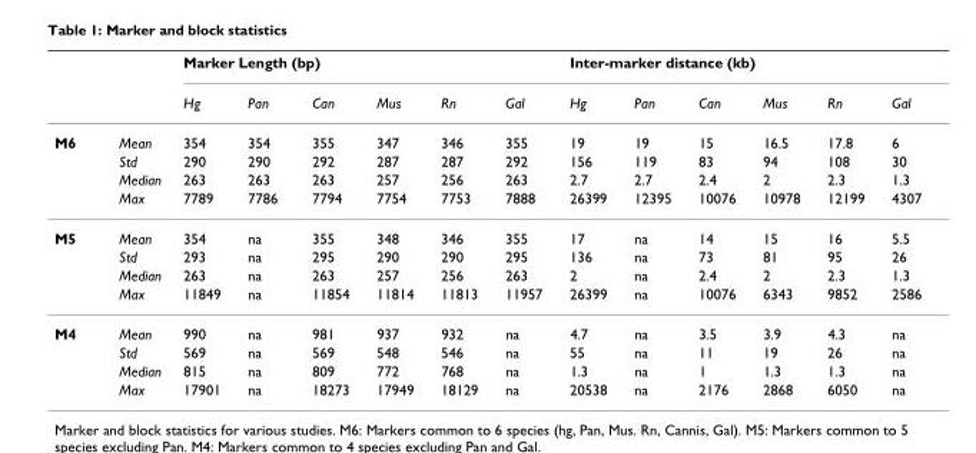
<table><thead><tr><td rowspan="2"></td><td rowspan="2"></td><td colspan="6">Marker Length (bp)</td><td colspan="6">Inter-marker distance (kb)</td></tr><tr><td>Hg</td><td>Pan</td><td>Can</td><td>Mus</td><td>Rn</td><td>Gal</td><td>Hg</td><td>Pan</td><td>Can</td><td>Mus</td><td>Rn</td><td>Gal</td></tr></thead><tbody><tr><td rowspan="4">M6</td><td>Mean</td><td>354</td><td>354</td><td>355</td><td>347</td><td>346</td><td>355</td><td>19</td><td>19</td><td>15</td><td>16.5</td><td>17.8</td><td>6</td></tr><tr><td>Std</td><td>290</td><td>290</td><td>292</td><td>287</td><td>287</td><td>292</td><td>156</td><td>119</td><td>83</td><td>94</td><td>108</td><td>30</td></tr><tr><td>Median</td><td>263</td><td>263</td><td>263</td><td>257</td><td>256</td><td>263</td><td>2.7</td><td>2.7</td><td>2.4</td><td>2</td><td>2.3</td><td>1.3</td></tr><tr><td>Max</td><td>7789</td><td>7786</td><td>7794</td><td>7754</td><td>7753</td><td>7888</td><td>26399</td><td>12395</td><td>10076</td><td>10978</td><td>12199</td><td>4307</td></tr><tr><td rowspan="4">M5</td><td>Mean</td><td>354</td><td>na</td><td>355</td><td>348</td><td>346</td><td>355</td><td>17</td><td>na</td><td>14</td><td>15</td><td>16</td><td>5.5</td></tr><tr><td>Std</td><td>293</td><td>na</td><td>295</td><td>290</td><td>290</td><td>295</td><td>136</td><td>na</td><td>73</td><td>81</td><td>95</td><td>26</td></tr><tr><td>Median</td><td>263</td><td>na</td><td>263</td><td>257</td><td>256</td><td>263</td><td>2</td><td>na</td><td>2.4</td><td>2</td><td>2.3</td><td>1.3</td></tr><tr><td>Max</td><td>11849</td><td>na</td><td>11854</td><td>11814</td><td>11813</td><td>11957</td><td>26399</td><td>na</td><td>10076</td><td>6343</td><td>9852</td><td>2586</td></tr><tr><td rowspan="4">M4</td><td>Mean</td><td>990</td><td>na</td><td>981</td><td>937</td><td>932</td><td>na</td><td>4.7</td><td>na</td><td>3.5</td><td>3.9</td><td>4.3</td><td>na</td></tr><tr><td>Std</td><td>569</td><td>na</td><td>569</td><td>548</td><td>546</td><td>na</td><td>55</td><td>na</td><td>11</td><td>19</td><td>26</td><td>na</td></tr><tr><td>Median</td><td>815</td><td>na</td><td>809</td><td>772</td><td>768</td><td>na</td><td>1.3</td><td>na</td><td>1</td><td>1.3</td><td>1.3</td><td>na</td></tr><tr><td>Max</td><td>17901</td><td>na</td><td>18273</td><td>17949</td><td>18129</td><td>na</td><td>20538</td><td>na</td><td>2176</td><td>2868</td><td>6050</td><td>na</td></tr></tbody></table>